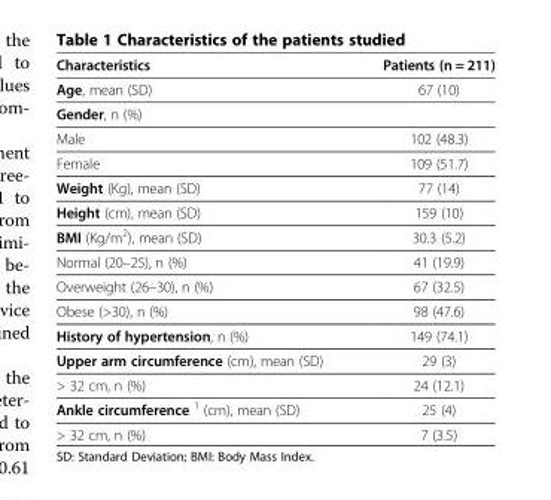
<table><thead><tr><td>Characteristics</td><td>Patients (n = 211)</td></tr></thead><tbody><tr><td>Age, mean (SD)</td><td>67 (10)</td></tr><tr><td colspan="2">Gender, n (%)</td></tr><tr><td>Male</td><td>102 (48.3)</td></tr><tr><td>Female</td><td>109 (51.7)</td></tr><tr><td>Weight (Kg), mean (SD)</td><td>77 (14)</td></tr><tr><td>Height (cm), mean (SD)</td><td>159 (10)</td></tr><tr><td>BMI (Kg/m<sup>2</sup>), mean (SD)</td><td>30.3 (5.2)</td></tr><tr><td>Normal (20–25), n (%)</td><td>41 (19.9)</td></tr><tr><td>Overweight (26–30), n (%)</td><td>67 (32.5)</td></tr><tr><td>Obese (&gt;30), n (%)</td><td>98 (47.6)</td></tr><tr><td>History of hypertension, n (%)</td><td>149 (74.1)</td></tr><tr><td>Upper arm circumference (cm), mean (SD)</td><td>29 (3)</td></tr><tr><td>&gt; 32 cm, n (%)</td><td>24 (12.1)</td></tr><tr><td>Ankle circumference <sup>1</sup> (cm), mean (SD)</td><td>25 (4)</td></tr><tr><td>&gt; 32 cm, n (%)</td><td>7 (3.5)</td></tr></tbody></table>